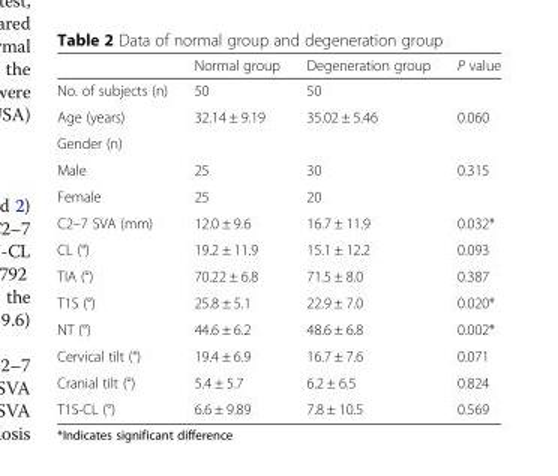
<table><thead><tr><td></td><td>Normal group</td><td>Degeneration group</td><td>P value</td></tr></thead><tbody><tr><td>No. of subjects (n)</td><td>50</td><td>50</td><td></td></tr><tr><td>Age (years)</td><td>32.14 ± 9.19</td><td>35.02 ± 5.46</td><td>0.060</td></tr><tr><td colspan="4">Gender (n)</td></tr><tr><td>Male</td><td>25</td><td>30</td><td>0.315</td></tr><tr><td>Female</td><td>25</td><td>20</td><td></td></tr><tr><td>C2–7 SVA (mm)</td><td>12.0 ± 9.6</td><td>16.7 ± 11.9</td><td>0.032*</td></tr><tr><td>CL (°)</td><td>19.2 ± 11.9</td><td>15.1 ± 12.2</td><td>0.093</td></tr><tr><td>TIA (°)</td><td>70.22 ± 6.8</td><td>71.5 ± 8.0</td><td>0.387</td></tr><tr><td>T1S (°)</td><td>25.8 ± 5.1</td><td>22.9 ± 7.0</td><td>0.020*</td></tr><tr><td>NT (°)</td><td>44.6 ± 6.2</td><td>48.6 ± 6.8</td><td>0.002*</td></tr><tr><td>Cervical tilt (°)</td><td>19.4 ± 6.9</td><td>16.7 ± 7.6</td><td>0.071</td></tr><tr><td>Cranial tilt (°)</td><td>5.4 ± 5.7</td><td>6.2 ± 6.5</td><td>0.824</td></tr><tr><td>T1S-CL (°)</td><td>6.6 ± 9.89</td><td>7.8 ± 10.5</td><td>0.569</td></tr></tbody></table>